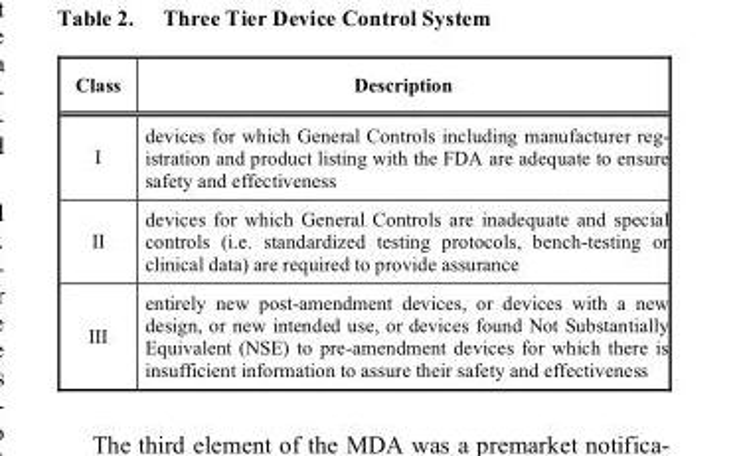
<table><thead><tr><td>Class</td><td>Description</td></tr></thead><tbody><tr><td>I</td><td>devices for which General Controls including manufacturer reg- istration and product listing with the FDA are adequate to ensure safety and effectiveness</td></tr><tr><td>II</td><td>devices for which General Controls are inadequate and special controls (i.e. standardized testing protocols, bench-testing or clinical data) are required to provide assurance</td></tr><tr><td>III</td><td>entirely new post-amendment devices, or devices with a new design, or new intended use, or devices found Not Substantially Equivalent (NSE) to pre-amendment devices for which there is insufficient information to assure their safety and effectiveness</td></tr></tbody></table>